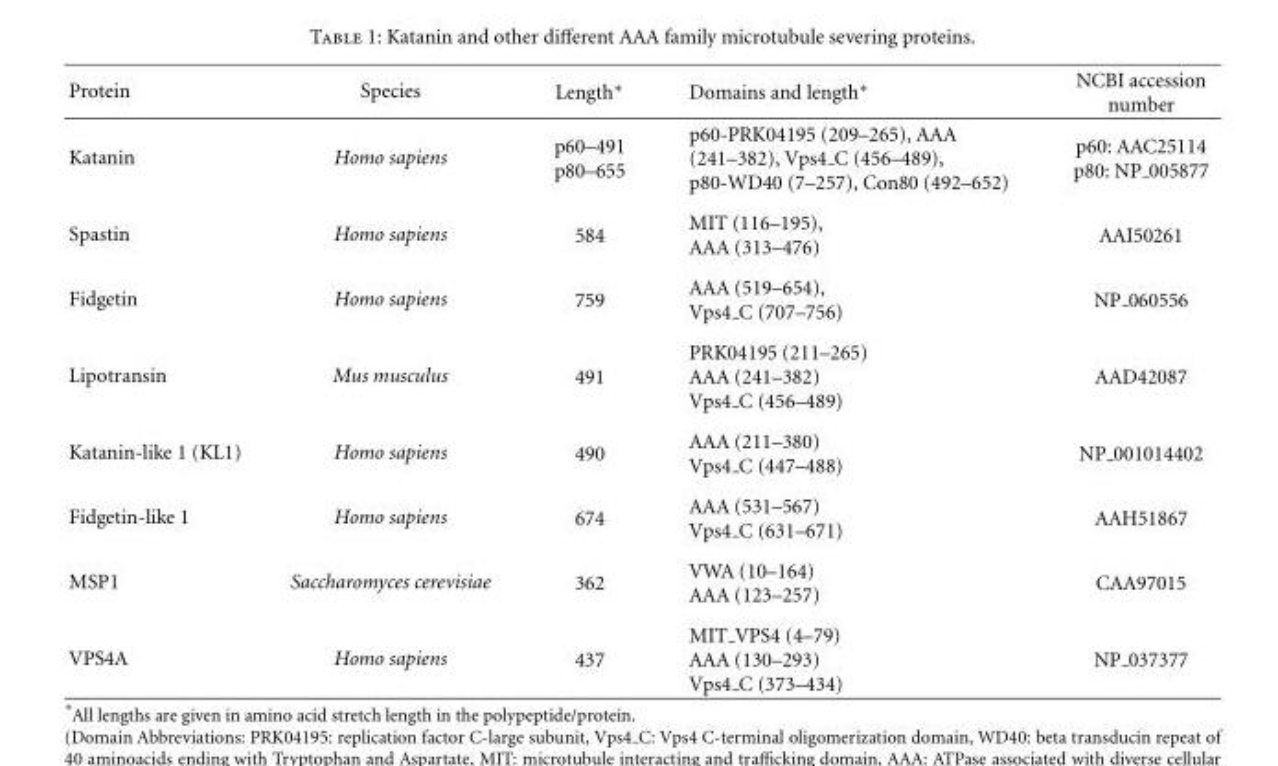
<table><thead><tr><td>Protein</td><td>Species</td><td>Length∗</td><td>Domains and length∗</td><td>NCBI accession number</td></tr></thead><tbody><tr><td>Katanin</td><td>Homo sapiens</td><td>p60–491 p80–655</td><td>p60-PRK04195 (209–265), AAA (241–382), Vps4 C (456–489), p80-WD40 (7–257), Con80 (492–652)</td><td>p60: AAC25114 p80: NP 005877</td></tr><tr><td>Spastin</td><td>Homo sapiens</td><td>584</td><td>MIT (116–195), AAA (313–476)</td><td>AAI50261</td></tr><tr><td>Fidgetin</td><td>Homo sapiens</td><td>759</td><td>AAA (519–654), Vps4 C (707–756)</td><td>NP 060556</td></tr><tr><td>Lipotransin</td><td>Mus musculus</td><td>491</td><td>PRK04195 (211–265) AAA (241–382) Vps4 C (456–489)</td><td>AAD42087</td></tr><tr><td>Katanin-like 1 (KL1)</td><td>Homo sapiens</td><td>490</td><td>AAA (211–380) Vps4 C (447–488)</td><td>NP 001014402</td></tr><tr><td>Fidgetin-like 1</td><td>Homo sapiens</td><td>674</td><td>AAA (531–567) Vps4 C (631–671)</td><td>AAH51867</td></tr><tr><td>MSP1</td><td>Saccharomyces cerevisiae</td><td>362</td><td>VWA (10–164) AAA (123–257)</td><td>CAA97015</td></tr><tr><td>VPS4A</td><td>Homo sapiens</td><td>437</td><td>MIT <sub>VPS4 (4–79) AAA (130–293) Vps4</sub> C (373–434)</td><td>NP 037377</td></tr></tbody></table>